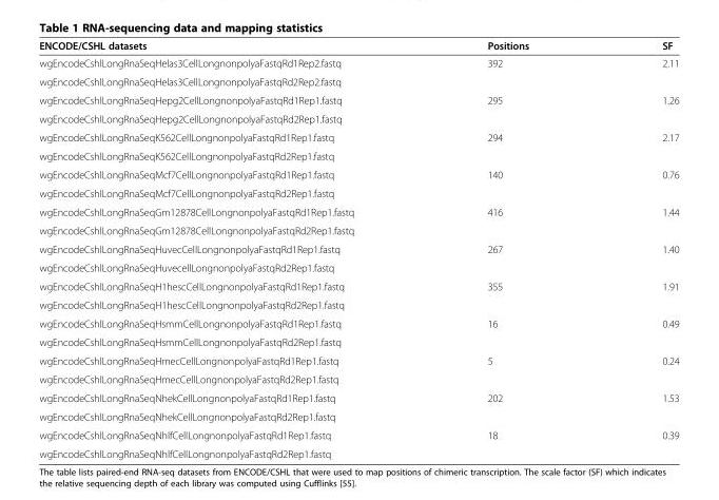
<table><thead><tr><td>ENCODE/CSHL datasets</td><td>Positions</td><td>SF</td></tr></thead><tbody><tr><td>wgEncodeCshlLongRnaSeqHelas3CellLongnonpolyaFastqRd1Rep2.fastq</td><td rowspan="2">392</td><td rowspan="2">2.11</td></tr><tr><td>wgEncodeCshlLongRnaSeqHelas3CellLongnonpolyaFastqRd2Rep2.fastq</td></tr><tr><td>wgEncodeCshlLongRnaSeqHepg2CellLongnonpolyaFastqRd1Rep1.fastq</td><td rowspan="2">295</td><td rowspan="2">1.26</td></tr><tr><td>wgEncodeCshlLongRnaSeqHepg2CellLongnonpolyaFastqRd2Rep1.fastq</td></tr><tr><td>wgEncodeCshlLongRnaSeqK562CellLongnonpolyaFastqRd1Rep1.fastq</td><td rowspan="2">294</td><td rowspan="2">2.17</td></tr><tr><td>wgEncodeCshlLongRnaSeqK562CellLongnonpolyaFastqRd2Rep1.fastq</td></tr><tr><td>wgEncodeCshlLongRnaSeqMcf7CellLongnonpolyaFastqRd1Rep1.fastq</td><td rowspan="2">140</td><td rowspan="2">0.76</td></tr><tr><td>wgEncodeCshlLongRnaSeqMcf7CellLongnonpolyaFastqRd2Rep1.fastq</td></tr><tr><td>wgEncodeCshlLongRnaSeqGm12878CellLongnonpolyaFastqRd1Rep1.fastq</td><td rowspan="2">416</td><td rowspan="2">1.44</td></tr><tr><td>wgEncodeCshlLongRnaSeqGm12878CellLongnonpolyaFastqRd2Rep1.fastq</td></tr><tr><td>wgEncodeCshlLongRnaSeqHuvecCellLongnonpolyaFastqRd1Rep1.fastq</td><td rowspan="2">267</td><td rowspan="2">1.40</td></tr><tr><td>wgEncodeCshlLongRnaSeqHuvecellLongnonpolyaFastqRd2Rep1.fastq</td></tr><tr><td>wgEncodeCshlLongRnaSeqH1hescCellLongnonpolyaFastqRd1Rep1.fastq</td><td rowspan="2">355</td><td rowspan="2">1.91</td></tr><tr><td>wgEncodeCshlLongRnaSeqH1hescCellLongnonpolyaFastqRd2Rep1.fastq</td></tr><tr><td>wgEncodeCshlLongRnaSeqHsmmCellLongnonpolyaFastqRd1Rep1.fastq</td><td rowspan="2">16</td><td rowspan="2">0.49</td></tr><tr><td>wgEncodeCshlLongRnaSeqHsmmCellLongnonpolyaFastqRd2Rep1.fastq</td></tr><tr><td>wgEncodeCshlLongRnaSeqHmecCellLongnonpolyaFastqRd1Rep1.fastq</td><td rowspan="2">5</td><td rowspan="2">0.24</td></tr><tr><td>wgEncodeCshlLongRnaSeqHmecCellLongnonpolyaFastqRd2Rep1.fastq</td></tr><tr><td>wgEncodeCshlLongRnaSeqNhekCellLongnonpolyaFastqRd1Rep1.fastq</td><td rowspan="2">202</td><td rowspan="2">1.53</td></tr><tr><td>wgEncodeCshlLongRnaSeqNhekCellLongnonpolyaFastqRd2Rep1.fastq</td></tr><tr><td>wgEncodeCshlLongRnaSeqNhlfCellLongnonpolyaFastqRd1Rep1.fastq</td><td rowspan="2">18</td><td rowspan="2">0.39</td></tr><tr><td>wgEncodeCshlLongRnaSeqNhlfCellLongnonpolyaFastqRd2Rep1.fastq</td></tr></tbody></table>